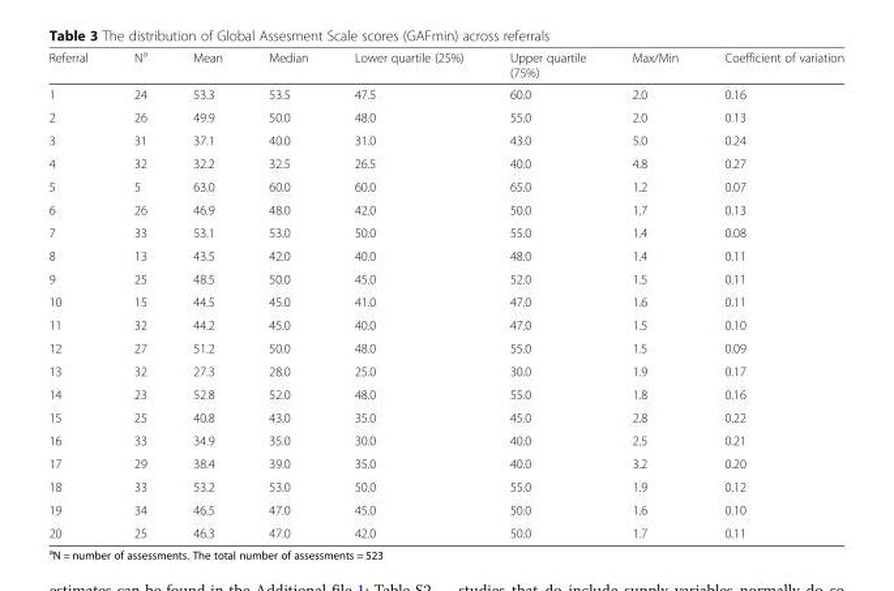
<table><thead><tr><td>Referral</td><td>N<sup>a</sup></td><td>Mean</td><td>Median</td><td>Lower quartile (25%)</td><td>Upper quartile (75%)</td><td>Max/Min</td><td>Coefficient of variation</td></tr></thead><tbody><tr><td>1</td><td>24</td><td>53.3</td><td>53.5</td><td>47.5</td><td>60.0</td><td>2.0</td><td>0.16</td></tr><tr><td>2</td><td>26</td><td>49.9</td><td>50.0</td><td>48.0</td><td>55.0</td><td>2.0</td><td>0.13</td></tr><tr><td>3</td><td>31</td><td>37.1</td><td>40.0</td><td>31.0</td><td>43.0</td><td>5.0</td><td>0.24</td></tr><tr><td>4</td><td>32</td><td>32.2</td><td>32.5</td><td>26.5</td><td>40.0</td><td>4.8</td><td>0.27</td></tr><tr><td>5</td><td>5</td><td>63.0</td><td>60.0</td><td>60.0</td><td>65.0</td><td>1.2</td><td>0.07</td></tr><tr><td>6</td><td>26</td><td>46.9</td><td>48.0</td><td>42.0</td><td>50.0</td><td>1.7</td><td>0.13</td></tr><tr><td>7</td><td>33</td><td>53.1</td><td>53.0</td><td>50.0</td><td>55.0</td><td>1.4</td><td>0.08</td></tr><tr><td>8</td><td>13</td><td>43.5</td><td>42.0</td><td>40.0</td><td>48.0</td><td>1.4</td><td>0.11</td></tr><tr><td>9</td><td>25</td><td>48.5</td><td>50.0</td><td>45.0</td><td>52.0</td><td>1.5</td><td>0.11</td></tr><tr><td>10</td><td>15</td><td>44.5</td><td>45.0</td><td>41.0</td><td>47.0</td><td>1.6</td><td>0.11</td></tr><tr><td>11</td><td>32</td><td>44.2</td><td>45.0</td><td>40.0</td><td>47.0</td><td>1.5</td><td>0.10</td></tr><tr><td>12</td><td>27</td><td>51.2</td><td>50.0</td><td>48.0</td><td>55.0</td><td>1.5</td><td>0.09</td></tr><tr><td>13</td><td>32</td><td>27.3</td><td>28.0</td><td>25.0</td><td>30.0</td><td>1.9</td><td>0.17</td></tr><tr><td>14</td><td>23</td><td>52.8</td><td>52.0</td><td>48.0</td><td>55.0</td><td>1.8</td><td>0.16</td></tr><tr><td>15</td><td>25</td><td>40.8</td><td>43.0</td><td>35.0</td><td>45.0</td><td>2.8</td><td>0.22</td></tr><tr><td>16</td><td>33</td><td>34.9</td><td>35.0</td><td>30.0</td><td>40.0</td><td>2.5</td><td>0.21</td></tr><tr><td>17</td><td>29</td><td>38.4</td><td>39.0</td><td>35.0</td><td>40.0</td><td>3.2</td><td>0.20</td></tr><tr><td>18</td><td>33</td><td>53.2</td><td>53.0</td><td>50.0</td><td>55.0</td><td>1.9</td><td>0.12</td></tr><tr><td>19</td><td>34</td><td>46.5</td><td>47.0</td><td>45.0</td><td>50.0</td><td>1.6</td><td>0.10</td></tr><tr><td>20</td><td>25</td><td>46.3</td><td>47.0</td><td>42.0</td><td>50.0</td><td>1.7</td><td>0.11</td></tr></tbody></table>